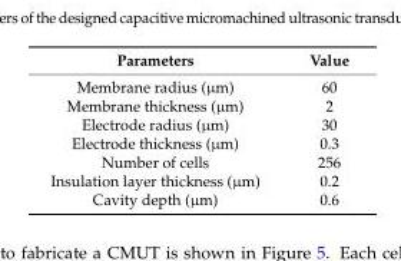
<table><thead><tr><td>Parameters</td><td>Value</td></tr></thead><tbody><tr><td>Membrane radius (µm)</td><td>60</td></tr><tr><td>Membrane thickness (µm)</td><td>2</td></tr><tr><td>Electrode radius (µm)</td><td>30</td></tr><tr><td>Electrode thickness (µm)</td><td>0.3</td></tr><tr><td>Number of cells</td><td>256</td></tr><tr><td>Insulation layer thickness (µm)</td><td>0.2</td></tr><tr><td>Cavity depth (µm)</td><td>0.6</td></tr></tbody></table>